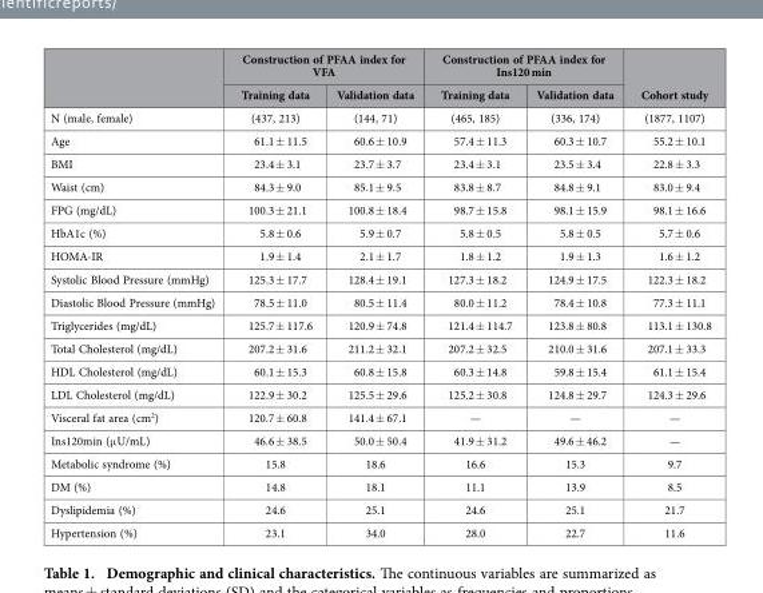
<table><thead><tr><td rowspan="2"></td><td colspan="2">Construction of PFAA index for VFA</td><td colspan="2">Construction of PFAA index for Ins120 min</td><td rowspan="2">Cohort study</td></tr><tr><td>Training data</td><td>Validation data</td><td>Training data</td><td>Validation data</td></tr></thead><tbody><tr><td>N (male, female)</td><td>(437, 213)</td><td>(144, 71)</td><td>(465, 185)</td><td>(336, 174)</td><td>(1877, 1107)</td></tr><tr><td>Age</td><td>61.1 ± 11.5</td><td>60.6 ± 10.9</td><td>57.4 ± 11.3</td><td>60.3 ± 10.7</td><td>55.2 ± 10.1</td></tr><tr><td>BMI</td><td>23.4 ± 3.1</td><td>23.7 ± 3.7</td><td>23.4 ± 3.1</td><td>23.5 ± 3.4</td><td>22.8 ± 3.3</td></tr><tr><td>Waist (cm)</td><td>84.3 ± 9.0</td><td>85.1 ± 9.5</td><td>83.8 ± 8.7</td><td>84.8 ± 9.1</td><td>83.0 ± 9.4</td></tr><tr><td>FPG (mg/dL)</td><td>100.3 ± 21.1</td><td>100.8 ± 18.4</td><td>98.7 ± 15.8</td><td>98.1 ± 15.9</td><td>98.1 ± 16.6</td></tr><tr><td>HbA1c (%)</td><td>5.8 ± 0.6</td><td>5.9 ± 0.7</td><td>5.8 ± 0.5</td><td>5.8 ± 0.5</td><td>5.7 ± 0.6</td></tr><tr><td>HOMA-IR</td><td>1.9 ± 1.4</td><td>2.1 ± 1.7</td><td>1.8 ± 1.2</td><td>1.9 ± 1.3</td><td>1.6 ± 1.2</td></tr><tr><td>Systolic Blood Pressure (mmHg)</td><td>125.3 ± 17.7</td><td>128.4 ± 19.1</td><td>127.3 ± 18.2</td><td>124.9 ± 17.5</td><td>122.3 ± 18.2</td></tr><tr><td>Diastolic Blood Pressure (mmHg)</td><td>78.5 ± 11.0</td><td>80.5 ± 11.4</td><td>80.0 ± 11.2</td><td>78.4 ± 10.8</td><td>77.3 ± 11.1</td></tr><tr><td>Triglycerides (mg/dL)</td><td>125.7 ± 117.6</td><td>120.9 ± 74.8</td><td>121.4 ± 114.7</td><td>123.8 ± 80.8</td><td>113.1 ± 130.8</td></tr><tr><td>Total Cholesterol (mg/dL)</td><td>207.2 ± 31.6</td><td>211.2 ± 32.1</td><td>207.2 ± 32.5</td><td>210.0 ± 31.6</td><td>207.1 ± 33.3</td></tr><tr><td>HDL Cholesterol (mg/dL)</td><td>60.1 ± 15.3</td><td>60.8 ± 15.8</td><td>60.3 ± 14.8</td><td>59.8 ± 15.4</td><td>61.1 ± 15.4</td></tr><tr><td>LDL Cholesterol (mg/dL)</td><td>122.9 ± 30.2</td><td>125.5 ± 29.6</td><td>125.2 ± 30.8</td><td>124.8 ± 29.7</td><td>124.3 ± 29.6</td></tr><tr><td>Visceral fat area (cm<sup>2</sup>)</td><td>120.7 ± 60.8</td><td>141.4 ± 67.1</td><td>—</td><td>—</td><td>—</td></tr><tr><td>Ins120min (μ U/mL)</td><td>46.6 ± 38.5</td><td>50.0 ± 50.4</td><td>41.9 ± 31.2</td><td>49.6 ± 46.2</td><td>—</td></tr><tr><td>Metabolic syndrome (%)</td><td>15.8</td><td>18.6</td><td>16.6</td><td>15.3</td><td>9.7</td></tr><tr><td>DM (%)</td><td>14.8</td><td>18.1</td><td>11.1</td><td>13.9</td><td>8.5</td></tr><tr><td>Dyslipidemia (%)</td><td>24.6</td><td>25.1</td><td>24.6</td><td>25.1</td><td>21.7</td></tr><tr><td>Hypertension (%)</td><td>23.1</td><td>34.0</td><td>28.0</td><td>22.7</td><td>11.6</td></tr></tbody></table>